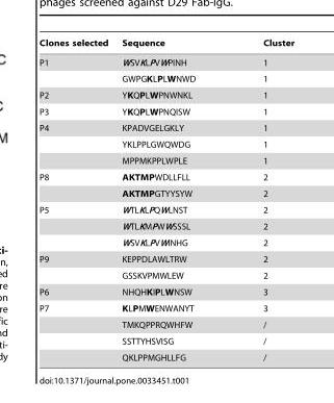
<table><thead><tr><td>Clones selected</td><td>Sequence</td><td>Cluster</td></tr></thead><tbody><tr><td rowspan="2">P1</td><td>WSVKLPVWPINH</td><td>1</td></tr><tr><td>GWPGKLPLWNWD</td><td>1</td></tr><tr><td>P2</td><td>YKQPLWPNWNKL</td><td>1</td></tr><tr><td>P3</td><td>YKQPLWPNQISW</td><td>1</td></tr><tr><td rowspan="3">P4</td><td>KPADVGELGKLY</td><td>1</td></tr><tr><td>YKLPPLGWQWDG</td><td>1</td></tr><tr><td>MPPMKPPLWPLE</td><td>1</td></tr><tr><td rowspan="2">P8</td><td>AKTMPWDLLFLL</td><td>2</td></tr><tr><td>AKTMPGTYYSYW</td><td>2</td></tr><tr><td rowspan="3">P5</td><td>WTLKLPQWLNST</td><td>2</td></tr><tr><td>WTLKMPWWSSSL</td><td>2</td></tr><tr><td>WSVKLPVWINHG</td><td>2</td></tr><tr><td rowspan="2">P9</td><td>KEPPDLAWLTRW</td><td>2</td></tr><tr><td>GSSKVPMWLEW</td><td>2</td></tr><tr><td>P6</td><td>NHQHKIPLWNSW</td><td>3</td></tr><tr><td rowspan="4">P7</td><td>KLPMWENWANYT</td><td>3</td></tr><tr><td>TMKQPPRQWHFW</td><td>/</td></tr><tr><td>SSTTYHSVISG</td><td>/</td></tr><tr><td>QKLPPMGHLLFG</td><td>/</td></tr></tbody></table>